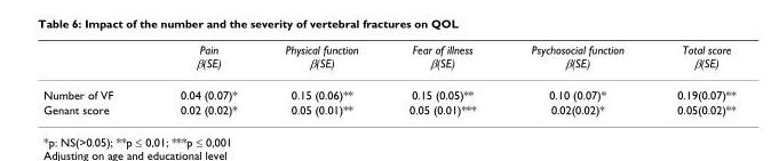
<table><thead><tr><td></td><td>Pain β(SE)</td><td>Physical function β(SE)</td><td>Fear of illness β(SE)</td><td>Psychosocial function β(SE)</td><td>Total score β(SE)</td></tr></thead><tbody><tr><td>Number of VF</td><td>0.04 (0.07)*</td><td>0.15 (0.06)**</td><td>0.15 (0.05)**</td><td>0.10 (0.07)*</td><td>0.19(0.07)**</td></tr><tr><td>Genant score</td><td>0.02 (0.02)*</td><td>0.05 (0.01)**</td><td>0.05 (0.01)***</td><td>0.02(0.02)*</td><td>0.05(0.02)**</td></tr></tbody></table>